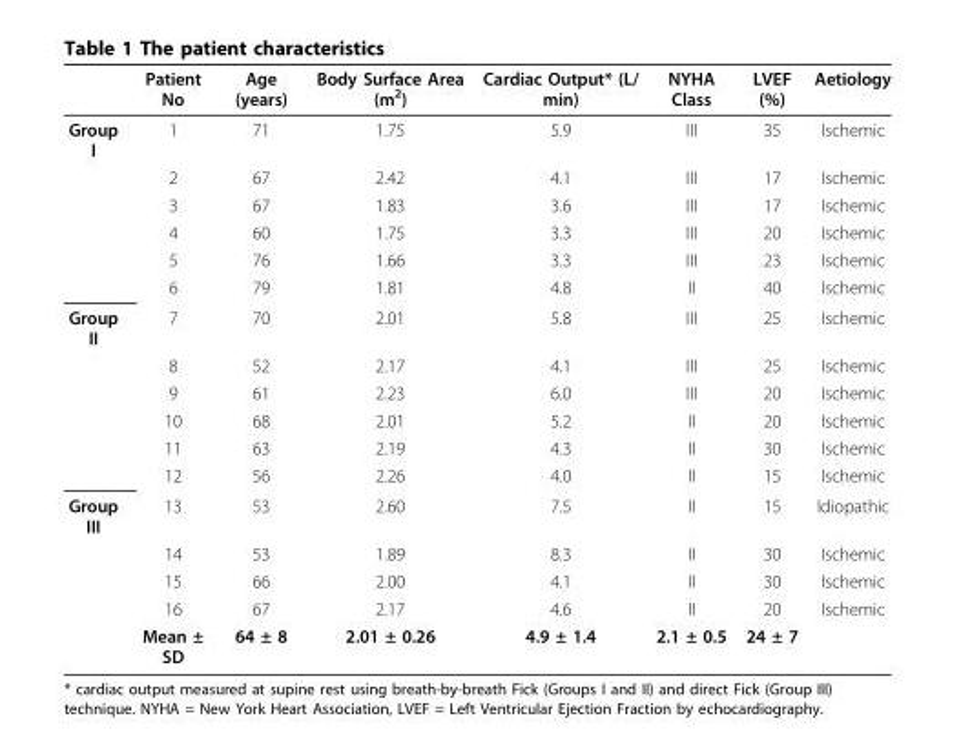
<table><thead><tr><td></td><td>Patient No</td><td>Age (years)</td><td>Body Surface Area (m<sup>2</sup>)</td><td>Cardiac Output* (L/ min)</td><td>NYHA Class</td><td>LVEF (%)</td><td>Aetiology</td></tr></thead><tbody><tr><td rowspan="6">Group I</td><td>1</td><td>71</td><td>1.75</td><td>5.9</td><td>III</td><td>35</td><td>Ischemic</td></tr><tr><td>2</td><td>67</td><td>2.42</td><td>4.1</td><td>III</td><td>17</td><td>Ischemic</td></tr><tr><td>3</td><td>67</td><td>1.83</td><td>3.6</td><td>III</td><td>17</td><td>Ischemic</td></tr><tr><td>4</td><td>60</td><td>1.75</td><td>3.3</td><td>III</td><td>20</td><td>Ischemic</td></tr><tr><td>5</td><td>76</td><td>1.66</td><td>3.3</td><td>III</td><td>23</td><td>Ischemic</td></tr><tr><td>6</td><td>79</td><td>1.81</td><td>4.8</td><td>II</td><td>40</td><td>Ischemic</td></tr><tr><td rowspan="6">Group II</td><td>7</td><td>70</td><td>2.01</td><td>5.8</td><td>III</td><td>25</td><td>Ischemic</td></tr><tr><td>8</td><td>52</td><td>2.17</td><td>4.1</td><td>III</td><td>25</td><td>Ischemic</td></tr><tr><td>9</td><td>61</td><td>2.23</td><td>6.0</td><td>III</td><td>20</td><td>Ischemic</td></tr><tr><td>10</td><td>68</td><td>2.01</td><td>5.2</td><td>II</td><td>20</td><td>Ischemic</td></tr><tr><td>11</td><td>63</td><td>2.19</td><td>4.3</td><td>II</td><td>30</td><td>Ischemic</td></tr><tr><td>12</td><td>56</td><td>2.26</td><td>4.0</td><td>II</td><td>15</td><td>Ischemic</td></tr><tr><td rowspan="5">Group III</td><td>13</td><td>53</td><td>2.60</td><td>7.5</td><td>II</td><td>15</td><td>Idiopathic</td></tr><tr><td>14</td><td>53</td><td>1.89</td><td>8.3</td><td>II</td><td>30</td><td>Ischemic</td></tr><tr><td>15</td><td>66</td><td>2.00</td><td>4.1</td><td>II</td><td>30</td><td>Ischemic</td></tr><tr><td>16</td><td>67</td><td>2.17</td><td>4.6</td><td>II</td><td>20</td><td>Ischemic</td></tr><tr><td>Mean ± SD</td><td>64 ± 8</td><td>2.01 ± 0.26</td><td>4.9 ± 1.4</td><td>2.1 ± 0.5</td><td>24 ± 7</td><td></td></tr></tbody></table>